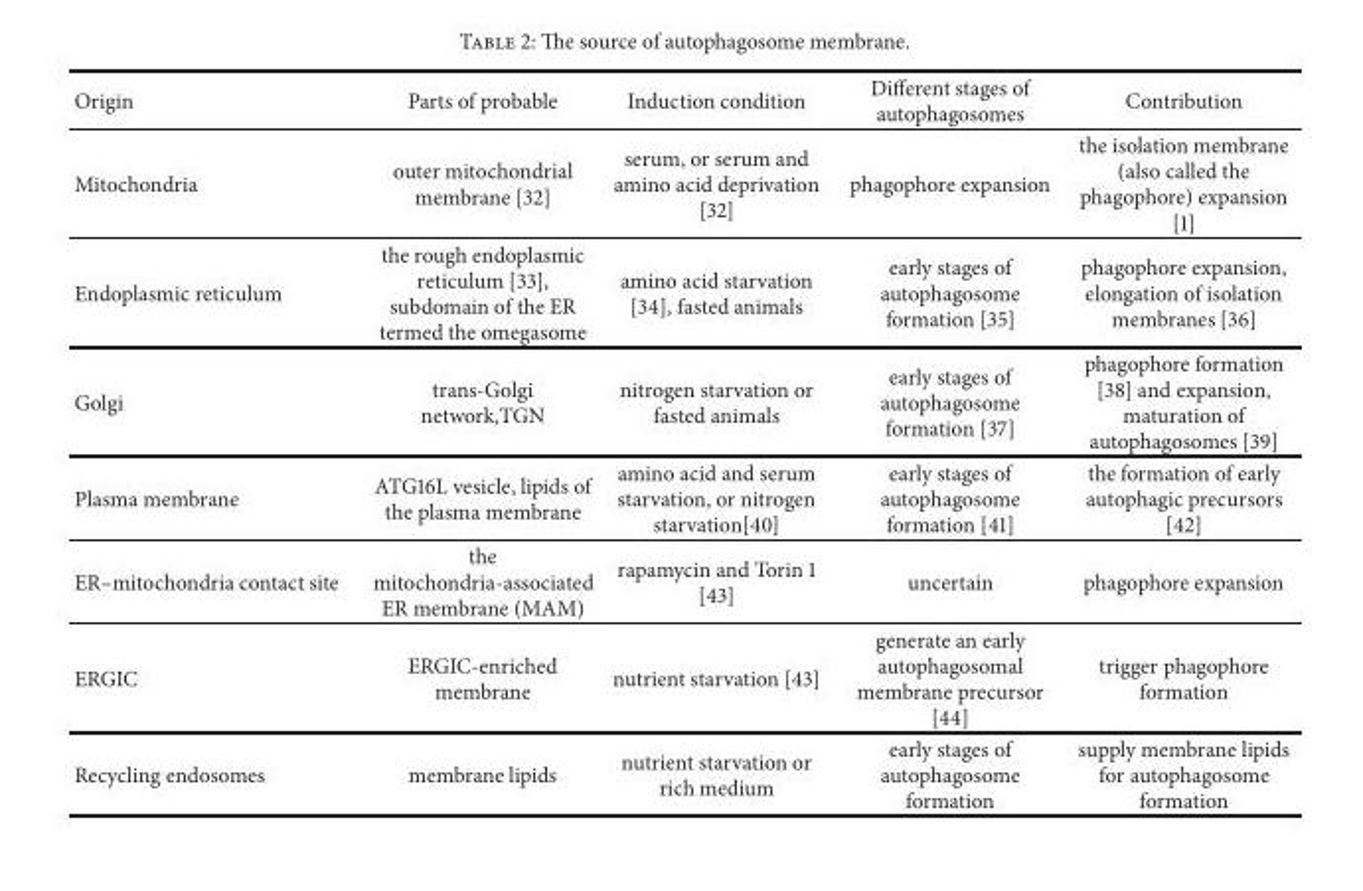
<table><thead><tr><td>Origin</td><td>Parts of probable</td><td>Induction condition</td><td>Different stages of autophagosomes</td><td>Contribution</td></tr></thead><tbody><tr><td>Mitochondria</td><td>outer mitochondrial membrane [32]</td><td>serum, or serum and amino acid deprivation [32]</td><td>phagophore expansion</td><td>the isolation membrane (also called the phagophore) expansion [1]</td></tr><tr><td>Endoplasmic reticulum</td><td>the rough endoplasmic reticulum [33], subdomain of the ER termed the omegasome</td><td>amino acid starvation [34], fasted animals</td><td>early stages of autophagosome formation [35]</td><td>phagophore expansion, elongation of isolation membranes [36]</td></tr><tr><td>Golgi</td><td>trans-Golgi network,TGN</td><td>nitrogen starvation or fasted animals</td><td>early stages of autophagosome formation [37]</td><td>phagophore formation [38] and expansion, maturation of autophagosomes [39]</td></tr><tr><td>Plasma membrane</td><td>ATG16L vesicle, lipids of the plasma membrane</td><td>amino acid and serum starvation, or nitrogen starvation[40]</td><td>early stages of autophagosome formation [41]</td><td>the formation of early autophagic precursors [42]</td></tr><tr><td>ER–mitochondria contact site</td><td>the mitochondria-associated ER membrane (MAM)</td><td>rapamycin and Torin 1 [43]</td><td>uncertain</td><td>phagophore expansion</td></tr><tr><td>ERGIC</td><td>ERGIC-enriched membrane</td><td>nutrient starvation [43]</td><td>generate an early autophagosomal membrane precursor [44]</td><td>trigger phagophore formation</td></tr><tr><td>Recycling endosomes</td><td>membrane lipids</td><td>nutrient starvation or rich medium</td><td>early stages of autophagosome formation</td><td>supply membrane lipids for autophagosome formation</td></tr></tbody></table>